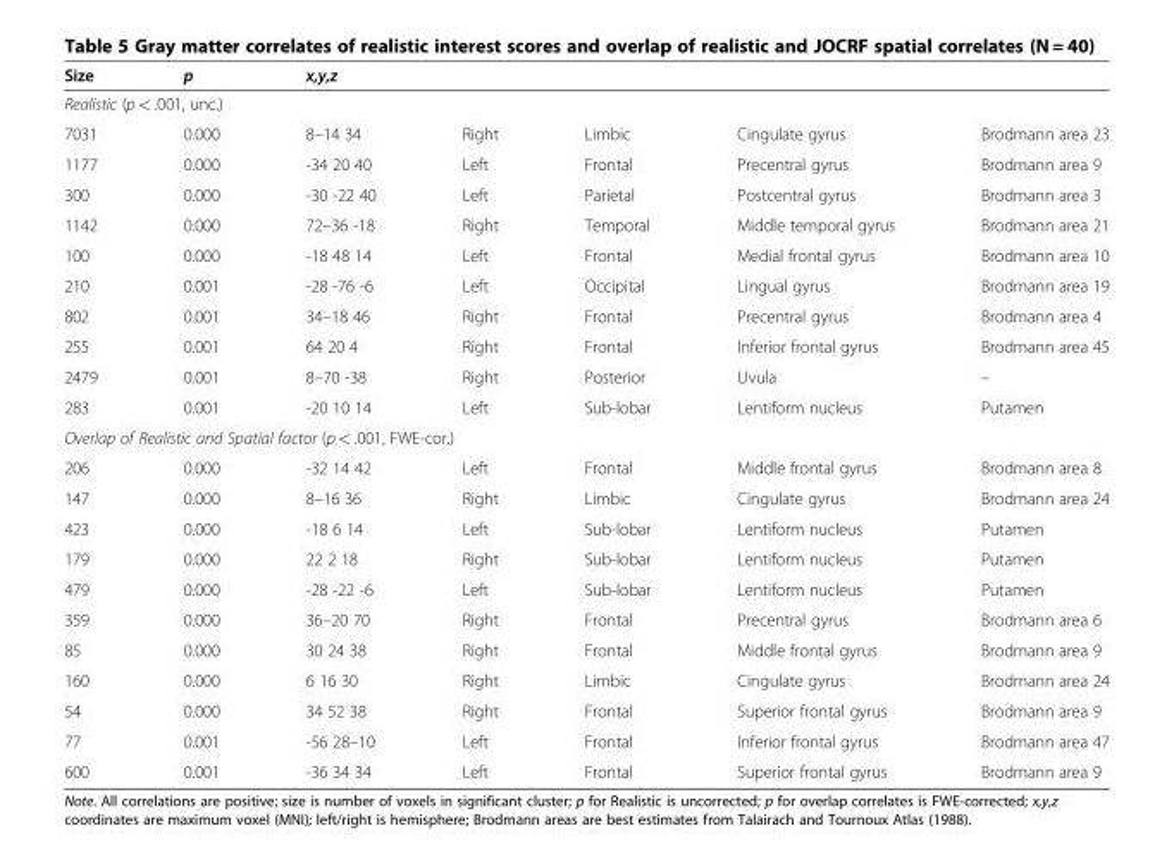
<table><thead><tr><td>Size</td><td>p</td><td colspan="5">x,y,z</td></tr><tr><td colspan="7">Realistic (p &lt; .001, unc.)</td></tr><tr><td>7031</td><td>0.000</td><td>8–14 34</td><td>Right</td><td>Limbic</td><td>Cingulate gyrus</td><td>Brodmann area 23</td></tr></thead><tbody><tr><td>1177</td><td>0.000</td><td>-34 20 40</td><td>Left</td><td>Frontal</td><td>Precentral gyrus</td><td>Brodmann area 9</td></tr><tr><td>300</td><td>0.000</td><td>-30 -22 40</td><td>Left</td><td>Parietal</td><td>Postcentral gyrus</td><td>Brodmann area 3</td></tr><tr><td>1142</td><td>0.000</td><td>72–36 -18</td><td>Right</td><td>Temporal</td><td>Middle temporal gyrus</td><td>Brodmann area 21</td></tr><tr><td>100</td><td>0.000</td><td>-18 48 14</td><td>Left</td><td>Frontal</td><td>Medial frontal gyrus</td><td>Brodmann area 10</td></tr><tr><td>210</td><td>0.001</td><td>-28 -76 -6</td><td>Left</td><td>Occipital</td><td>Lingual gyrus</td><td>Brodmann area 19</td></tr><tr><td>802</td><td>0.001</td><td>34–18 46</td><td>Right</td><td>Frontal</td><td>Precentral gyrus</td><td>Brodmann area 4</td></tr><tr><td>255</td><td>0.001</td><td>64 20 4</td><td>Right</td><td>Frontal</td><td>Inferior frontal gyrus</td><td>Brodmann area 45</td></tr><tr><td>2479</td><td>0.001</td><td>8–70 -38</td><td>Right</td><td>Posterior</td><td>Uvula</td><td>–</td></tr><tr><td>283</td><td>0.001</td><td>-20 10 14</td><td>Left</td><td>Sub-lobar</td><td>Lentiform nucleus</td><td>Putamen</td></tr><tr><td colspan="7">Overlap of Realistic and Spatial factor (p &lt; .001, FWE-cor.)</td></tr><tr><td>206</td><td>0.000</td><td>-32 14 42</td><td>Left</td><td>Frontal</td><td>Middle frontal gyrus</td><td>Brodmann area 8</td></tr><tr><td>147</td><td>0.000</td><td>8–16 36</td><td>Right</td><td>Limbic</td><td>Cingulate gyrus</td><td>Brodmann area 24</td></tr><tr><td>423</td><td>0.000</td><td>-18 6 14</td><td>Left</td><td>Sub-lobar</td><td>Lentiform nucleus</td><td>Putamen</td></tr><tr><td>179</td><td>0.000</td><td>22 2 18</td><td>Right</td><td>Sub-lobar</td><td>Lentiform nucleus</td><td>Putamen</td></tr><tr><td>479</td><td>0.000</td><td>-28 -22 -6</td><td>Left</td><td>Sub-lobar</td><td>Lentiform nucleus</td><td>Putamen</td></tr><tr><td>359</td><td>0.000</td><td>36–20 70</td><td>Right</td><td>Frontal</td><td>Precentral gyrus</td><td>Brodmann area 6</td></tr><tr><td>85</td><td>0.000</td><td>30 24 38</td><td>Right</td><td>Frontal</td><td>Middle frontal gyrus</td><td>Brodmann area 9</td></tr><tr><td>160</td><td>0.000</td><td>6 16 30</td><td>Right</td><td>Limbic</td><td>Cingulate gyrus</td><td>Brodmann area 24</td></tr><tr><td>54</td><td>0.000</td><td>34 52 38</td><td>Right</td><td>Frontal</td><td>Superior frontal gyrus</td><td>Brodmann area 9</td></tr><tr><td>77</td><td>0.001</td><td>-56 28–10</td><td>Left</td><td>Frontal</td><td>Inferior frontal gyrus</td><td>Brodmann area 47</td></tr><tr><td>600</td><td>0.001</td><td>-36 34 34</td><td>Left</td><td>Frontal</td><td>Superior frontal gyrus</td><td>Brodmann area 9</td></tr></tbody></table>